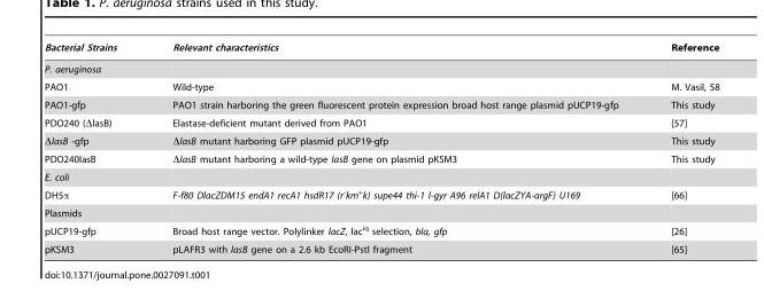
<table><thead><tr><td>Bacterial Strains</td><td>Relevant characteristics</td><td>Reference</td></tr></thead><tbody><tr><td colspan="3">P. aeruginosa</td></tr><tr><td>PAO1</td><td>Wild-type</td><td>M. Vasil, 58</td></tr><tr><td>PAO1-gfp</td><td>PAO1 strain harboring the green fluorescent protein expression broad host range plasmid pUCP19-gfp</td><td>This study</td></tr><tr><td>PDO240 (ΔlasB)</td><td>Elastase-deficient mutant derived from PAO1</td><td>[57]</td></tr><tr><td>ΔlasB -gfp</td><td>ΔlasB mutant harboring GFP plasmid pUCP19-gfp</td><td>This study</td></tr><tr><td>PDO240lasB</td><td>ΔlasB mutant harboring a wild-type lasB gene on plasmid pKSM3</td><td>This study</td></tr><tr><td colspan="3">E. coli</td></tr><tr><td>DH5α</td><td>F-f80 DlacZDM15 endA1 recA1 hsdR17 (r<sup>-</sup>km<sup>+</sup>k) supe44 thi-1 l-gyr A96 relA1 D(lacZYA-argF) U169</td><td>[66]</td></tr><tr><td colspan="3">Plasmids</td></tr><tr><td>pUCP19-gfp</td><td>Broad host range vector. Polylinker lacZ, lac<sup>iq</sup> selection, bla, gfp</td><td>[26]</td></tr><tr><td>pKSM3</td><td>pLAFR3 with lasB gene on a 2.6 kb EcoRI-Pstl fragment</td><td>[65]</td></tr></tbody></table>